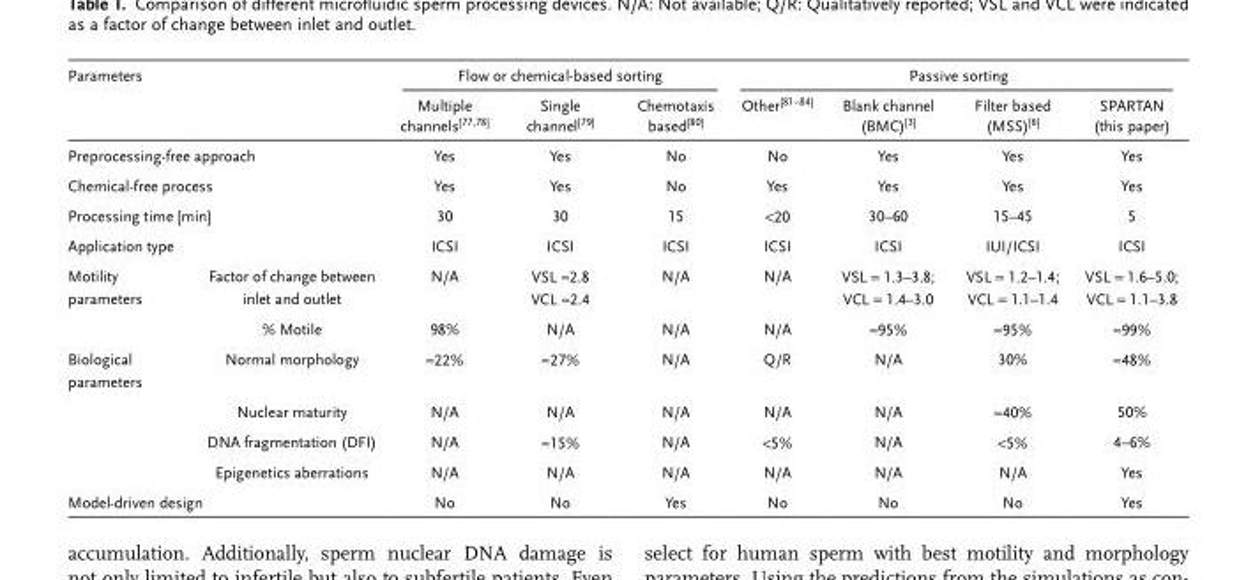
<table><thead><tr><td colspan="2">Parameters</td><td colspan="3">Flow or chemical-based sorting</td><td colspan="4">Passive sorting</td></tr><tr><td></td><td></td><td>Multiple channels[77,78]</td><td>Single channel[79]</td><td>Chemotaxis based[80]</td><td>Other[81–84]</td><td>Blank channel (BMC)[3]</td><td>Filter based (MSS)[6]</td><td>SPARTAN (this paper)</td></tr></thead><tbody><tr><td colspan="2">Preprocessing-free approach</td><td>Yes</td><td>Yes</td><td>No</td><td>No</td><td>Yes</td><td>Yes</td><td>Yes</td></tr><tr><td colspan="2">Chemical-free process</td><td>Yes</td><td>Yes</td><td>No</td><td>Yes</td><td>Yes</td><td>Yes</td><td>Yes</td></tr><tr><td colspan="2">Processing time [min]</td><td>30</td><td>30</td><td>15</td><td>&lt;20</td><td>30–60</td><td>15–45</td><td>5</td></tr><tr><td colspan="2">Application type</td><td>ICSI</td><td>ICSI</td><td>ICSI</td><td>ICSI</td><td>ICSI</td><td>IUI/ICSI</td><td>ICSI</td></tr><tr><td rowspan="2">Motility parameters</td><td>Factor of change between inlet and outlet</td><td>N/A</td><td>VSL ≈2.8 VCL ≈2.4</td><td>N/A</td><td>N/A</td><td>VSL = 1.3–3.8; VCL = 1.4–3.0</td><td>VSL = 1.2–1.4; VCL = 1.1–1.4</td><td>VSL = 1.6–5.0; VCL = 1.1–3.8</td></tr><tr><td>% Motile</td><td>98%</td><td>N/A</td><td>N/A</td><td>N/A</td><td>≈95%</td><td>≈95%</td><td>≈99%</td></tr><tr><td rowspan="4">Biological parameters</td><td>Normal morphology</td><td>≈22%</td><td>≈27%</td><td>N/A</td><td>Q/R</td><td>N/A</td><td>30%</td><td>≈48%</td></tr><tr><td>Nuclear maturity</td><td>N/A</td><td>N/A</td><td>N/A</td><td>N/A</td><td>N/A</td><td>≈40%</td><td>50%</td></tr><tr><td>DNA fragmentation (DFI)</td><td>N/A</td><td>≈15%</td><td>N/A</td><td>&lt;5%</td><td>N/A</td><td>&lt;5%</td><td>4–6%</td></tr><tr><td>Epigenetics aberrations</td><td>N/A</td><td>N/A</td><td>N/A</td><td>N/A</td><td>N/A</td><td>N/A</td><td>Yes</td></tr><tr><td colspan="2">Model-driven design</td><td>No</td><td>No</td><td>Yes</td><td>No</td><td>No</td><td>No</td><td>Yes</td></tr></tbody></table>